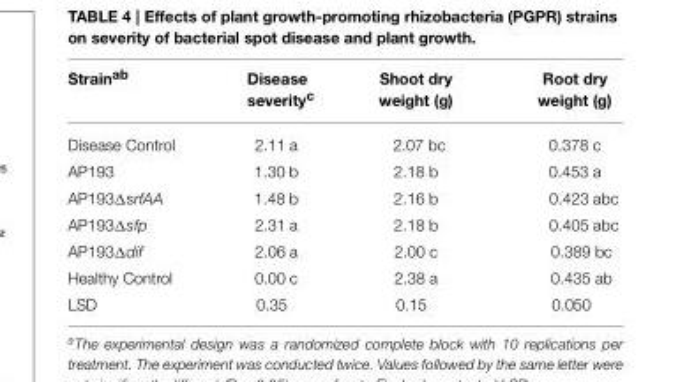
<table><thead><tr><td>Strain<sup>ab</sup></td><td>Disease severity<sup>c</sup></td><td>Shoot dry weight (g)</td><td>Root dry weight (g)</td></tr></thead><tbody><tr><td>Disease Control</td><td>2.11 a</td><td>2.07 bc</td><td>0.378 c</td></tr><tr><td>AP193</td><td>1.30 b</td><td>2.18 b</td><td>0.453 a</td></tr><tr><td>AP193ΔsrfAA</td><td>1.48 b</td><td>2.16 b</td><td>0.423 abc</td></tr><tr><td>AP193Δsfp</td><td>2.31 a</td><td>2.18 b</td><td>0.405 abc</td></tr><tr><td>AP193Δdif</td><td>2.06 a</td><td>2.00 c</td><td>0.389 bc</td></tr><tr><td>Healthy Control</td><td>0.00 c</td><td>2.38 a</td><td>0.435 ab</td></tr><tr><td>LSD</td><td>0.35</td><td>0.15</td><td>0.050</td></tr></tbody></table>